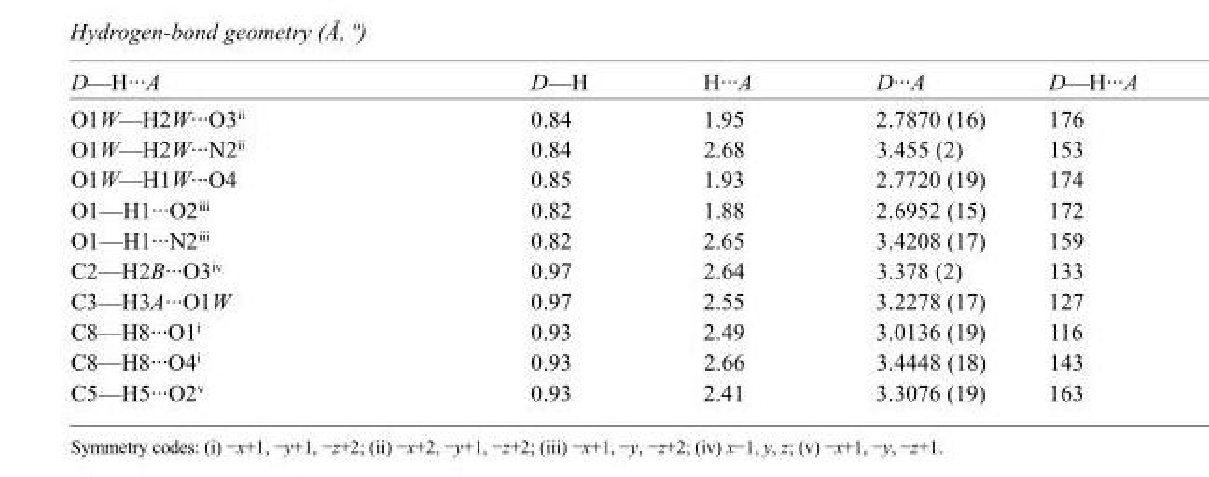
<table><tbody><tr><td>D—H···A</td><td>D—H</td><td>H···A</td><td>D···A</td><td>D—H···A</td></tr><tr><td>O1W—H2W···O3<sup>ii</sup></td><td>0.84</td><td>1.95</td><td>2.7870 (16)</td><td>176</td></tr><tr><td>O1W—H2W···N2<sup>ii</sup></td><td>0.84</td><td>2.68</td><td>3.455 (2)</td><td>153</td></tr><tr><td>O1W—H1W···O4</td><td>0.85</td><td>1.93</td><td>2.7720 (19)</td><td>174</td></tr><tr><td>O1—H1···O2<sup>iii</sup></td><td>0.82</td><td>1.88</td><td>2.6952 (15)</td><td>172</td></tr><tr><td>O1—H1···N2<sup>iii</sup></td><td>0.82</td><td>2.65</td><td>3.4208 (17)</td><td>159</td></tr><tr><td>C2—H2B···O3<sup>iv</sup></td><td>0.97</td><td>2.64</td><td>3.378 (2)</td><td>133</td></tr><tr><td>C3—H3A···O1W</td><td>0.97</td><td>2.55</td><td>3.2278 (17)</td><td>127</td></tr><tr><td>C8—H8···O1<sup>i</sup></td><td>0.93</td><td>2.49</td><td>3.0136 (19)</td><td>116</td></tr><tr><td>C8—H8···O4<sup>i</sup></td><td>0.93</td><td>2.66</td><td>3.4448 (18)</td><td>143</td></tr><tr><td>C5—H5···O2<sup>v</sup></td><td>0.93</td><td>2.41</td><td>3.3076 (19)</td><td>163</td></tr></tbody></table>